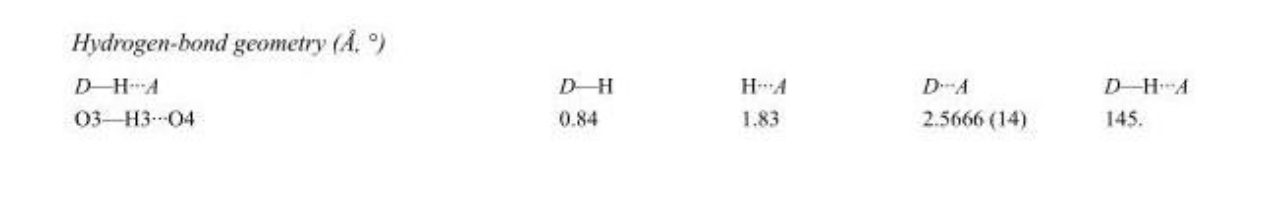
<table><tbody><tr><td>D—H···A</td><td>D—H</td><td>H···A</td><td>D···A</td><td>D—H···A</td></tr><tr><td>O3—H3···O4</td><td>0.84</td><td>1.83</td><td>2.5666 (14)</td><td>145.</td></tr></tbody></table>